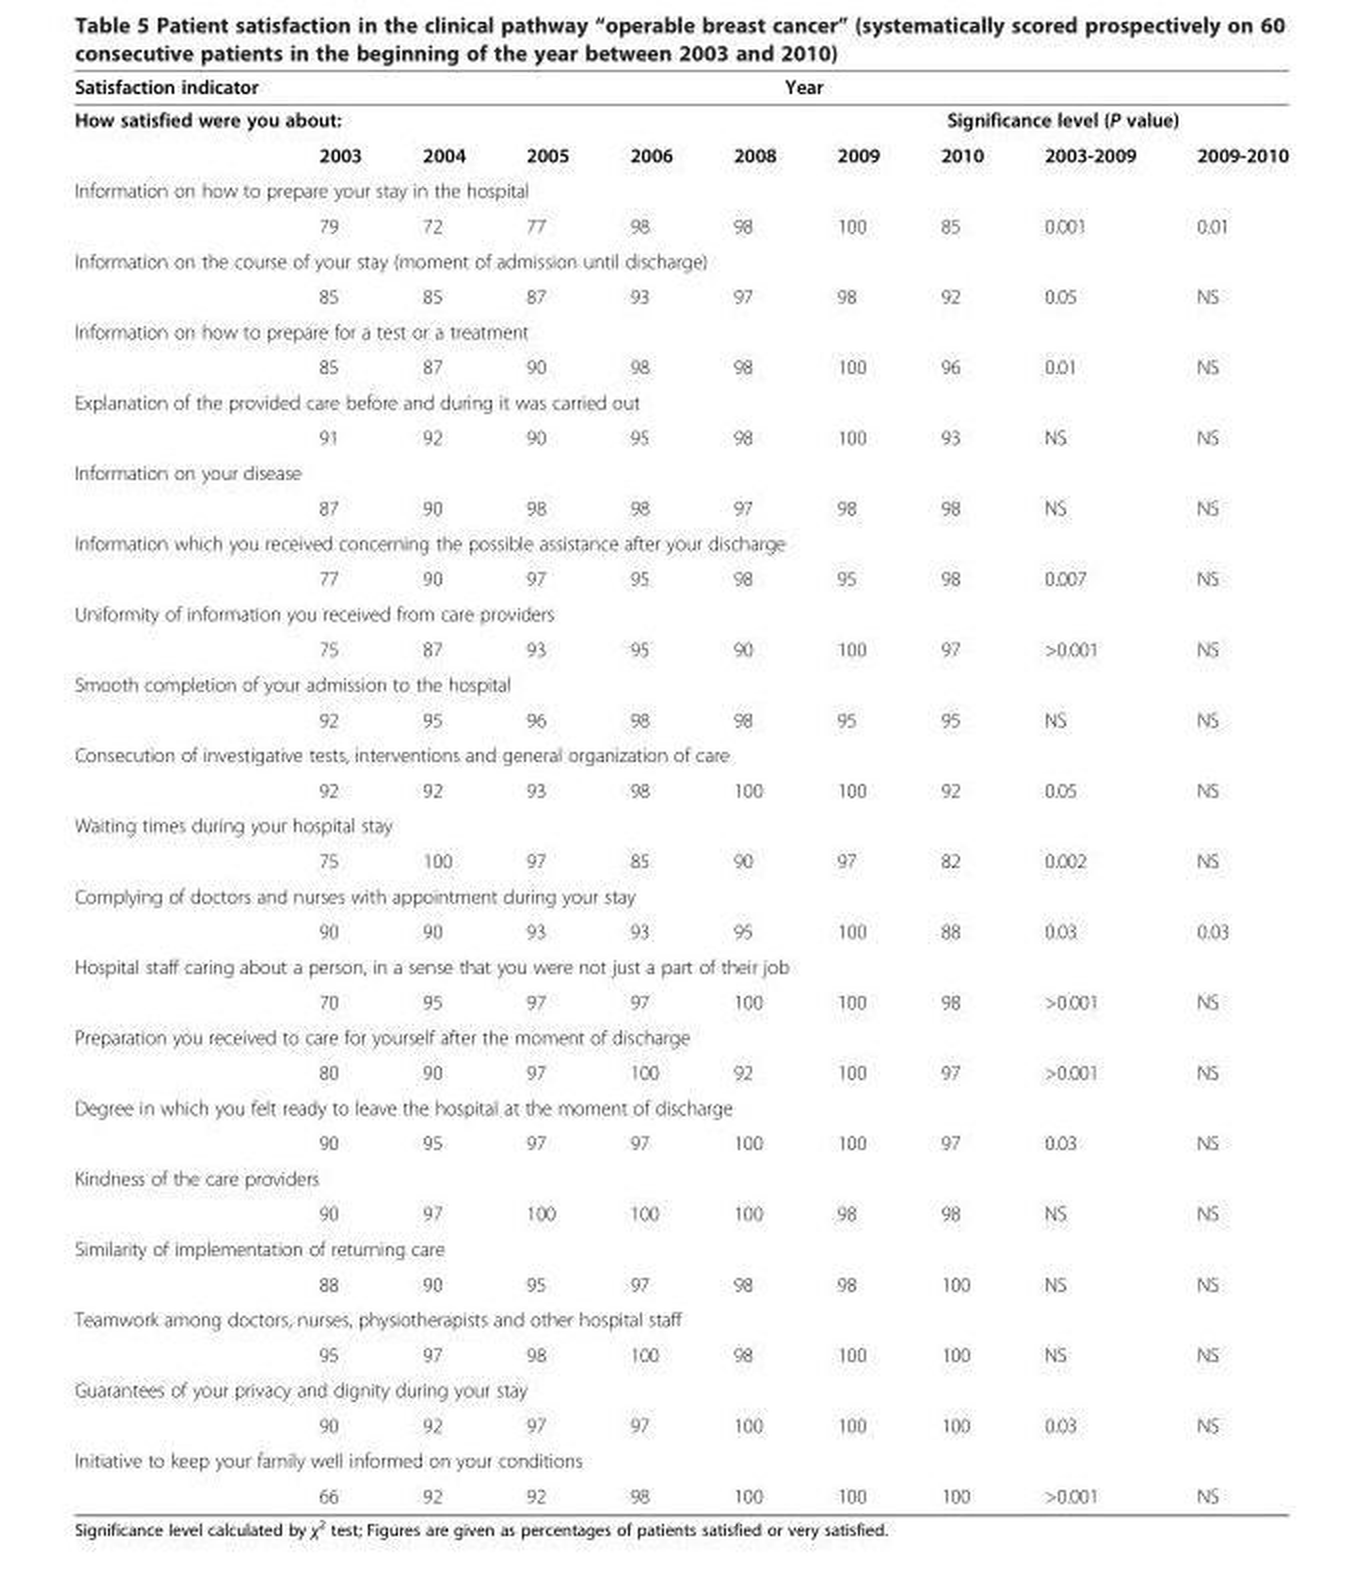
<table><thead><tr><td>Satisfaction indicator</td><td colspan="9">Year</td></tr><tr><td colspan="6">How satisfied were you about:</td><td colspan="4">Significance level (P value)</td></tr><tr><td></td><td>2003</td><td>2004</td><td>2005</td><td>2006</td><td>2008</td><td>2009</td><td>2010</td><td>2003-2009</td><td>2009-2010</td></tr></thead><tbody><tr><td colspan="10">Information on how to prepare your stay in the hospital</td></tr><tr><td></td><td>79</td><td>72</td><td>77</td><td>98</td><td>98</td><td>100</td><td>85</td><td>0.001</td><td>0.01</td></tr><tr><td colspan="10">Information on the course of your stay (moment of admission until discharge)</td></tr><tr><td></td><td>85</td><td>85</td><td>87</td><td>93</td><td>97</td><td>98</td><td>92</td><td>0.05</td><td>NS</td></tr><tr><td colspan="10">Information on how to prepare for a test or a treatment</td></tr><tr><td></td><td>85</td><td>87</td><td>90</td><td>98</td><td>98</td><td>100</td><td>96</td><td>0.01</td><td>NS</td></tr><tr><td colspan="10">Explanation of the provided care before and during it was carried out</td></tr><tr><td></td><td>91</td><td>92</td><td>90</td><td>95</td><td>98</td><td>100</td><td>93</td><td>NS</td><td>NS</td></tr><tr><td colspan="10">Information on your disease</td></tr><tr><td></td><td>87</td><td>90</td><td>98</td><td>98</td><td>97</td><td>98</td><td>98</td><td>NS</td><td>NS</td></tr><tr><td colspan="10">Information which you received concerning the possible assistance after your discharge</td></tr><tr><td></td><td>77</td><td>90</td><td>97</td><td>95</td><td>98</td><td>95</td><td>98</td><td>0.007</td><td>NS</td></tr><tr><td colspan="10">Uniformity of information you received from care providers</td></tr><tr><td></td><td>75</td><td>87</td><td>93</td><td>95</td><td>90</td><td>100</td><td>97</td><td>&gt;0.001</td><td>NS</td></tr><tr><td colspan="10">Smooth completion of your admission to the hospital</td></tr><tr><td></td><td>92</td><td>95</td><td>96</td><td>98</td><td>98</td><td>95</td><td>95</td><td>NS</td><td>NS</td></tr><tr><td colspan="10">Consecution of investigative tests, interventions and general organization of care</td></tr><tr><td></td><td>92</td><td>92</td><td>93</td><td>98</td><td>100</td><td>100</td><td>92</td><td>0.05</td><td>NS</td></tr><tr><td colspan="10">Waiting times during your hospital stay</td></tr><tr><td></td><td>75</td><td>100</td><td>97</td><td>85</td><td>90</td><td>97</td><td>82</td><td>0.002</td><td>NS</td></tr><tr><td colspan="10">Complying of doctors and nurses with appointment during your stay</td></tr><tr><td></td><td>90</td><td>90</td><td>93</td><td>93</td><td>95</td><td>100</td><td>88</td><td>0.03</td><td>0.03</td></tr><tr><td colspan="10">Hospital staff caring about a person, in a sense that you were not just a part of their job</td></tr><tr><td></td><td>70</td><td>95</td><td>97</td><td>97</td><td>100</td><td>100</td><td>98</td><td>&gt;0.001</td><td>NS</td></tr><tr><td colspan="10">Preparation you received to care for yourself after the moment of discharge</td></tr><tr><td></td><td>80</td><td>90</td><td>97</td><td>100</td><td>92</td><td>100</td><td>97</td><td>&gt;0.001</td><td>NS</td></tr><tr><td colspan="10">Degree in which you felt ready to leave the hospital at the moment of discharge</td></tr><tr><td></td><td>90</td><td>95</td><td>97</td><td>97</td><td>100</td><td>100</td><td>97</td><td>0.03</td><td>NS</td></tr><tr><td colspan="10">Kindness of the care providers</td></tr><tr><td></td><td>90</td><td>97</td><td>100</td><td>100</td><td>100</td><td>98</td><td>98</td><td>NS</td><td>NS</td></tr><tr><td colspan="10">Similarity of implementation of returning care</td></tr><tr><td></td><td>88</td><td>90</td><td>95</td><td>97</td><td>98</td><td>98</td><td>100</td><td>NS</td><td>NS</td></tr><tr><td colspan="10">Teamwork among doctors, nurses, physiotherapists and other hospital staff</td></tr><tr><td></td><td>95</td><td>97</td><td>98</td><td>100</td><td>98</td><td>100</td><td>100</td><td>NS</td><td>NS</td></tr><tr><td colspan="10">Guarantees of your privacy and dignity during your stay</td></tr><tr><td></td><td>90</td><td>92</td><td>97</td><td>97</td><td>100</td><td>100</td><td>100</td><td>0.03</td><td>NS</td></tr><tr><td colspan="10">Initiative to keep your family well informed on your conditions</td></tr><tr><td></td><td>66</td><td>92</td><td>92</td><td>98</td><td>100</td><td>100</td><td>100</td><td>&gt;0.001</td><td>NS</td></tr></tbody></table>